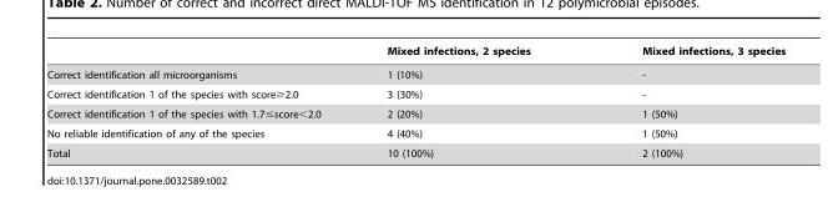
<table><thead><tr><td></td><td>Mixed infections, 2 species</td><td>Mixed infections, 3 species</td></tr></thead><tbody><tr><td>Correct identification all microorganisms</td><td>1 (10%)</td><td>-</td></tr><tr><td>Correct identification 1 of the species with score≥2.0</td><td>3 (30%)</td><td>-</td></tr><tr><td>Correct identification 1 of the species with 1.7≤score&lt;2.0</td><td>2 (20%)</td><td>1 (50%)</td></tr><tr><td>No reliable identification of any of the species</td><td>4 (40%)</td><td>1 (50%)</td></tr><tr><td>Total</td><td>10 (100%)</td><td>2 (100%)</td></tr></tbody></table>